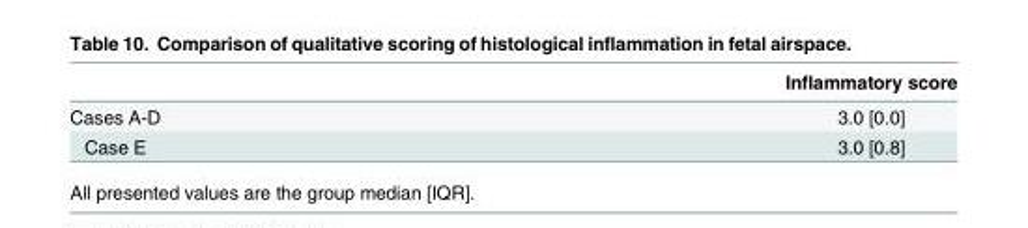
<table><thead><tr><td></td><td>Inflammatory score</td></tr></thead><tbody><tr><td>Cases A-D</td><td>3.0 [0.0]</td></tr><tr><td>Case E</td><td>3.0 [0.8]</td></tr></tbody></table>